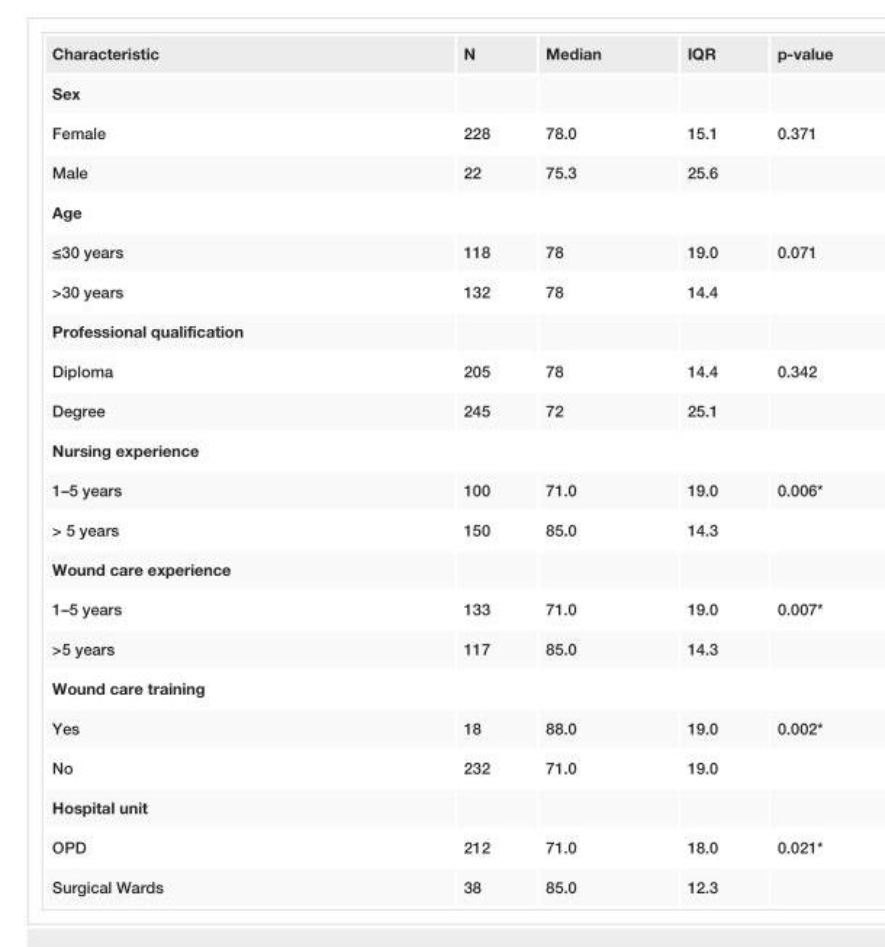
<table><tbody><tr><td>Characteristic</td><td>N</td><td>Median</td><td>IQR</td><td>p-value</td></tr><tr><td colspan="5">Sex</td></tr><tr><td>Female</td><td>228</td><td>78.0</td><td>15.1</td><td>0.371</td></tr><tr><td>Male</td><td>22</td><td>75.3</td><td>25.6</td><td></td></tr><tr><td colspan="5">Age</td></tr><tr><td>≤30 years</td><td>118</td><td>78</td><td>19.0</td><td>0.071</td></tr><tr><td>&gt;30 years</td><td>132</td><td>78</td><td>14.4</td><td></td></tr><tr><td colspan="5">Professional qualification</td></tr><tr><td>Diploma</td><td>205</td><td>78</td><td>14.4</td><td>0.342</td></tr><tr><td>Degree</td><td>245</td><td>72</td><td>25.1</td><td></td></tr><tr><td colspan="5">Nursing experience</td></tr><tr><td>1–5 years</td><td>100</td><td>71.0</td><td>19.0</td><td>0.006*</td></tr><tr><td>&gt; 5 years</td><td>150</td><td>85.0</td><td>14.3</td><td></td></tr><tr><td colspan="5">Wound care experience</td></tr><tr><td>1–5 years</td><td>133</td><td>71.0</td><td>19.0</td><td>0.007*</td></tr><tr><td>&gt;5 years</td><td>117</td><td>85.0</td><td>14.3</td><td></td></tr><tr><td colspan="5">Wound care training</td></tr><tr><td>Yes</td><td>18</td><td>88.0</td><td>19.0</td><td>0.002*</td></tr><tr><td>No</td><td>232</td><td>71.0</td><td>19.0</td><td></td></tr><tr><td colspan="5">Hospital unit</td></tr><tr><td>OPD</td><td>212</td><td>71.0</td><td>18.0</td><td>0.021*</td></tr><tr><td>Surgical Wards</td><td>38</td><td>85.0</td><td>12.3</td><td></td></tr></tbody></table>